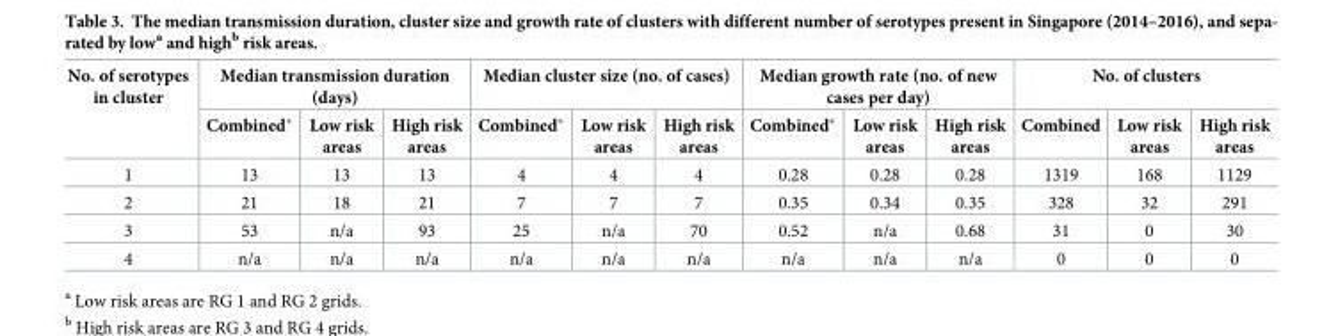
<table><thead><tr><td rowspan="2">No. of serotypes in cluster</td><td colspan="3">Median transmission duration (days)</td><td colspan="3">Median cluster size (no. of cases)</td><td colspan="3">Median growth rate (no. of new cases per day)</td><td colspan="3">No. of clusters</td></tr><tr><td>Combined*</td><td>Low risk areas</td><td>High risk areas</td><td>Combined*</td><td>Low risk areas</td><td>High risk areas</td><td>Combined*</td><td>Low risk areas</td><td>High risk areas</td><td>Combined</td><td>Low risk areas</td><td>High risk areas</td></tr></thead><tbody><tr><td>1</td><td>13</td><td>13</td><td>13</td><td>4</td><td>4</td><td>4</td><td>0.28</td><td>0.28</td><td>0.28</td><td>1319</td><td>168</td><td>1129</td></tr><tr><td>2</td><td>21</td><td>18</td><td>21</td><td>7</td><td>7</td><td>7</td><td>0.35</td><td>0.34</td><td>0.35</td><td>328</td><td>32</td><td>291</td></tr><tr><td>3</td><td>53</td><td>n/a</td><td>93</td><td>25</td><td>n/a</td><td>70</td><td>0.52</td><td>n/a</td><td>0.68</td><td>31</td><td>0</td><td>30</td></tr><tr><td>4</td><td>n/a</td><td>n/a</td><td>n/a</td><td>n/a</td><td>n/a</td><td>n/a</td><td>n/a</td><td>n/a</td><td>n/a</td><td>0</td><td>0</td><td>0</td></tr></tbody></table>